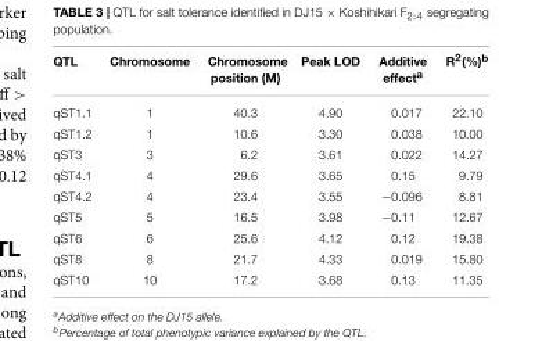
<table><thead><tr><td>QTL</td><td>Chromosome</td><td>Chromosome position (M)</td><td>Peak LOD</td><td>Additive effect<sup>a</sup></td><td>R<sup>2</sup>(%)<sup>b</sup></td></tr></thead><tbody><tr><td>qST1.1</td><td>1</td><td>40.3</td><td>4.90</td><td>0.017</td><td>22.10</td></tr><tr><td>qST1.2</td><td>1</td><td>10.6</td><td>3.30</td><td>0.038</td><td>10.00</td></tr><tr><td>qST3</td><td>3</td><td>6.2</td><td>3.61</td><td>0.022</td><td>14.27</td></tr><tr><td>qST4.1</td><td>4</td><td>29.6</td><td>3.65</td><td>0.15</td><td>9.79</td></tr><tr><td>qST4.2</td><td>4</td><td>23.4</td><td>3.55</td><td>−0.096</td><td>8.81</td></tr><tr><td>qST5</td><td>5</td><td>16.5</td><td>3.98</td><td>−0.11</td><td>12.67</td></tr><tr><td>qST6</td><td>6</td><td>25.6</td><td>4.12</td><td>0.12</td><td>19.38</td></tr><tr><td>qST8</td><td>8</td><td>21.7</td><td>4.33</td><td>0.019</td><td>15.80</td></tr><tr><td>qST10</td><td>10</td><td>17.2</td><td>3.68</td><td>0.13</td><td>11.35</td></tr></tbody></table>